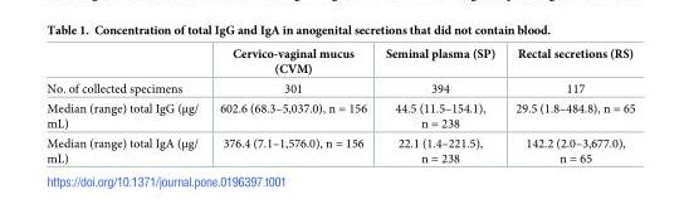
<table><thead><tr><td></td><td>Cervico-vaginal mucus (CVM)</td><td>Seminal plasma (SP)</td><td>Rectal secretions (RS)</td></tr></thead><tbody><tr><td>No. of collected specimens</td><td>301</td><td>394</td><td>117</td></tr><tr><td>Median (range) total IgG (μg/ mL)</td><td>602.6 (68.3–5,037.0), n = 156</td><td>44.5 (11.5–154.1), n = 238</td><td>29.5 (1.8–484.8), n = 65</td></tr><tr><td>Median (range) total IgA (μg/ mL)</td><td>376.4 (7.1–1,576.0), n = 156</td><td>22.1 (1.4–221.5), n = 238</td><td>142.2 (2.0–3,677.0), n = 65</td></tr></tbody></table>